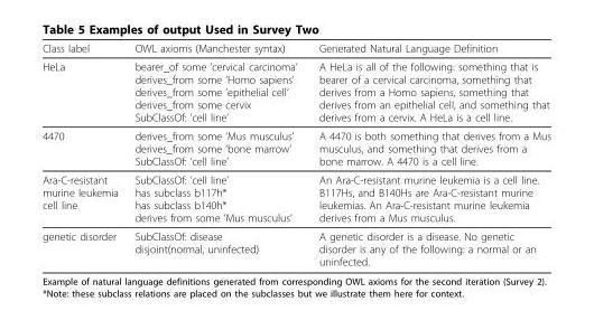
<table><thead><tr><td>Class label</td><td>OWL axioms (Manchester syntax)</td><td>Generated Natural Language Definition</td></tr></thead><tbody><tr><td>HeLa</td><td>bearer_of some ’cervical carcinoma’ derives_from some ’Homo sapiens’ derives_from some ’epithelial cell’ derives_from some cervix SubClassOf: ’cell line’</td><td>A HeLa is all of the following: something that is bearer of a cervical carcinoma, something that derives from a Homo sapiens, something that derives from an epithelial cell, and something that derives from a cervix. A HeLa is a cell line.</td></tr><tr><td>4470</td><td>derives_from some ’Mus musculus’ derives_from some ’bone marrow’ SubClassOf: ’cell line’</td><td>A 4470 is both something that derives from a Mus musculus, and something that derives from a bone marrow. A 4470 is a cell line.</td></tr><tr><td>Ara-C-resistant murine leukemia cell line</td><td>SubClassOf: ’cell line’ has subclass b117h* has subclass b140h* derives from some ’Mus musculus’</td><td>An Ara-C-resistant murine leukemia is a cell line. B117Hs, and B140Hs are Ara-C-resistant murine leukemias. An Ara-C-resistant murine leukemia derives from a Mus musculus.</td></tr><tr><td>genetic disorder</td><td>SubClassOf: disease disjoint(normal, uninfected)</td><td>A genetic disorder is a disease. No genetic disorder is any of the following: a normal or an uninfected.</td></tr></tbody></table>